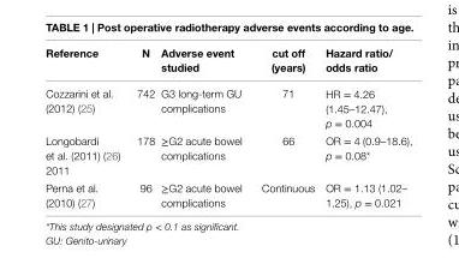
<table><thead><tr><td>Reference</td><td>n</td><td>Adverse event studied</td><td>cut off (years)</td><td>Hazard ratio/ odds ratio</td></tr></thead><tbody><tr><td>Cozzarini et al. (2012) (25)</td><td>742</td><td>G3 long-term GU complications</td><td>71</td><td>HR = 4.26 (1.45–12.47), p = 0.004</td></tr><tr><td>Longobardi et al. (2011) (26) 2011</td><td>178</td><td>≥G2 acute bowel complications</td><td>66</td><td>OR = 4 (0.9–18.6), p = 0.08*</td></tr><tr><td>Perna et al. (2010) (27)</td><td>96</td><td>≥G2 acute bowel complications</td><td>Continuous</td><td>OR = 1.13 (1.02– 1.25), p = 0.021</td></tr></tbody></table>